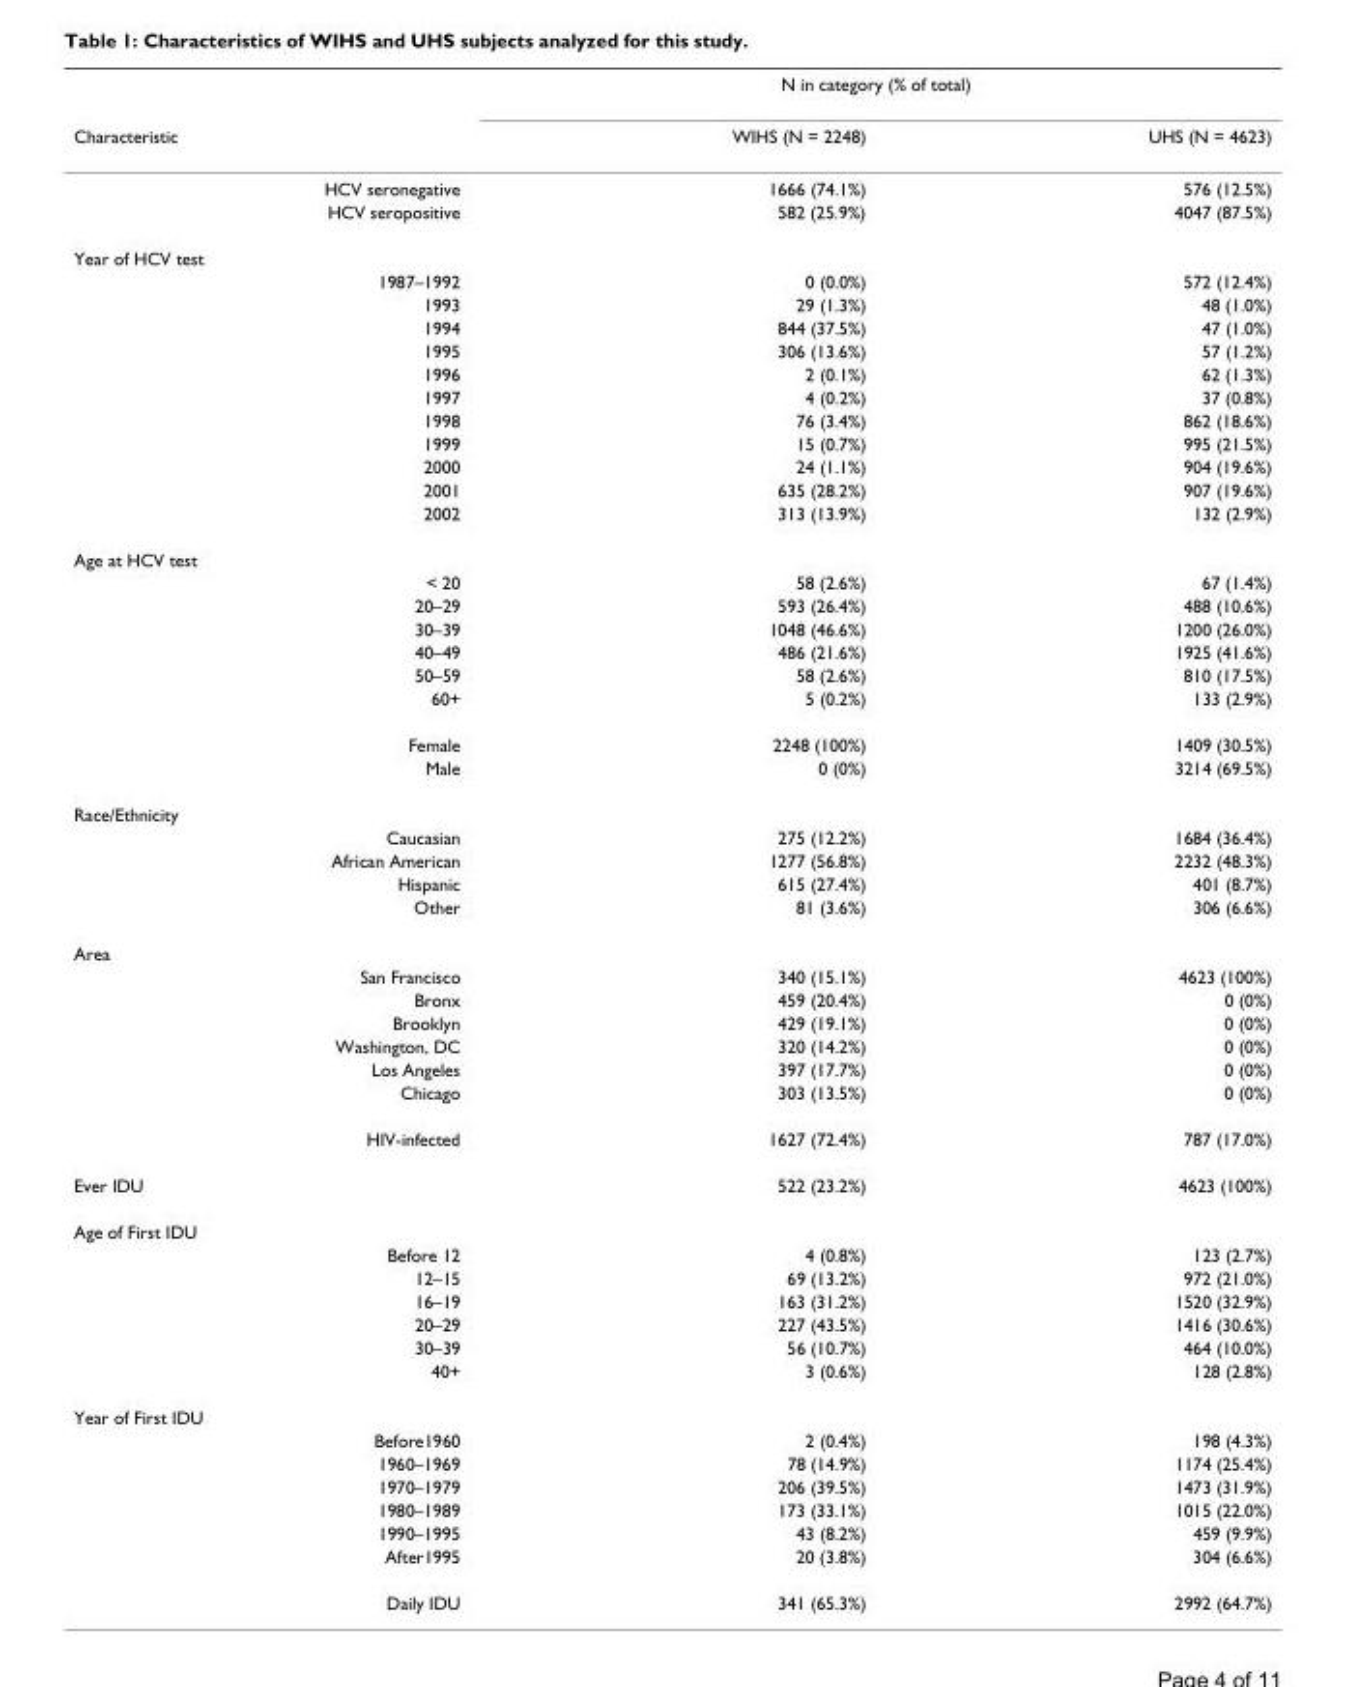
<table><thead><tr><td rowspan="2">Characteristic</td><td colspan="2">N in category (% of total)</td></tr><tr><td>WIHS (N = 2248)</td><td>UHS (N = 4623)</td></tr></thead><tbody><tr><td>HCV seronegative</td><td>1666 (74.1%)</td><td>576 (12.5%)</td></tr><tr><td>HCV seropositive</td><td>582 (25.9%)</td><td>4047 (87.5%)</td></tr><tr><td colspan="3">Year of HCV test</td></tr><tr><td>1987–1992</td><td>0 (0.0%)</td><td>572 (12.4%)</td></tr><tr><td>1993</td><td>29 (1.3%)</td><td>48 (1.0%)</td></tr><tr><td>1994</td><td>844 (37.5%)</td><td>47 (1.0%)</td></tr><tr><td>1995</td><td>306 (13.6%)</td><td>57 (1.2%)</td></tr><tr><td>1996</td><td>2 (0.1%)</td><td>62 (1.3%)</td></tr><tr><td>1997</td><td>4 (0.2%)</td><td>37 (0.8%)</td></tr><tr><td>1998</td><td>76 (3.4%)</td><td>862 (18.6%)</td></tr><tr><td>1999</td><td>15 (0.7%)</td><td>995 (21.5%)</td></tr><tr><td>2000</td><td>24 (1.1%)</td><td>904 (19.6%)</td></tr><tr><td>2001</td><td>635 (28.2%)</td><td>907 (19.6%)</td></tr><tr><td>2002</td><td>313 (13.9%)</td><td>132 (2.9%)</td></tr><tr><td colspan="3">Age at HCV test</td></tr><tr><td>&lt; 20</td><td>58 (2.6%)</td><td>67 (1.4%)</td></tr><tr><td>20–29</td><td>593 (26.4%)</td><td>488 (10.6%)</td></tr><tr><td>30–39</td><td>1048 (46.6%)</td><td>1200 (26.0%)</td></tr><tr><td>40–49</td><td>486 (21.6%)</td><td>1925 (41.6%)</td></tr><tr><td>50–59</td><td>58 (2.6%)</td><td>810 (17.5%)</td></tr><tr><td>60+</td><td>5 (0.2%)</td><td>133 (2.9%)</td></tr><tr><td>Female</td><td>2248 (100%)</td><td>1409 (30.5%)</td></tr><tr><td>Male</td><td>0 (0%)</td><td>3214 (69.5%)</td></tr><tr><td colspan="3">Race/Ethnicity</td></tr><tr><td>Caucasian</td><td>275 (12.2%)</td><td>1684 (36.4%)</td></tr><tr><td>African American</td><td>1277 (56.8%)</td><td>2232 (48.3%)</td></tr><tr><td>Hispanic</td><td>615 (27.4%)</td><td>401 (8.7%)</td></tr><tr><td>Other</td><td>81 (3.6%)</td><td>306 (6.6%)</td></tr><tr><td colspan="3">Area</td></tr><tr><td>San Francisco</td><td>340 (15.1%)</td><td>4623 (100%)</td></tr><tr><td>Bronx</td><td>459 (20.4%)</td><td>0 (0%)</td></tr><tr><td>Brooklyn</td><td>429 (19.1%)</td><td>0 (0%)</td></tr><tr><td>Washington, DC</td><td>320 (14.2%)</td><td>0 (0%)</td></tr><tr><td>Los Angeles</td><td>397 (17.7%)</td><td>0 (0%)</td></tr><tr><td>Chicago</td><td>303 (13.5%)</td><td>0 (0%)</td></tr><tr><td>HIV-infected</td><td>1627 (72.4%)</td><td>787 (17.0%)</td></tr><tr><td>Ever IDU</td><td>522 (23.2%)</td><td>4623 (100%)</td></tr><tr><td colspan="3">Age of First IDU</td></tr><tr><td>Before 12</td><td>4 (0.8%)</td><td>123 (2.7%)</td></tr><tr><td>12–15</td><td>69 (13.2%)</td><td>972 (21.0%)</td></tr><tr><td>16–19</td><td>163 (31.2%)</td><td>1520 (32.9%)</td></tr><tr><td>20–29</td><td>227 (43.5%)</td><td>1416 (30.6%)</td></tr><tr><td>30–39</td><td>56 (10.7%)</td><td>464 (10.0%)</td></tr><tr><td>40+</td><td>3 (0.6%)</td><td>128 (2.8%)</td></tr><tr><td colspan="3">Year of First IDU</td></tr><tr><td>Before1960</td><td>2 (0.4%)</td><td>198 (4.3%)</td></tr><tr><td>1960–1969</td><td>78 (14.9%)</td><td>1174 (25.4%)</td></tr><tr><td>1970–1979</td><td>206 (39.5%)</td><td>1473 (31.9%)</td></tr><tr><td>1980–1989</td><td>173 (33.1%)</td><td>1015 (22.0%)</td></tr><tr><td>1990–1995</td><td>43 (8.2%)</td><td>459 (9.9%)</td></tr><tr><td>After1995</td><td>20 (3.8%)</td><td>304 (6.6%)</td></tr><tr><td>Daily IDU</td><td>341 (65.3%)</td><td>2992 (64.7%)</td></tr></tbody></table>